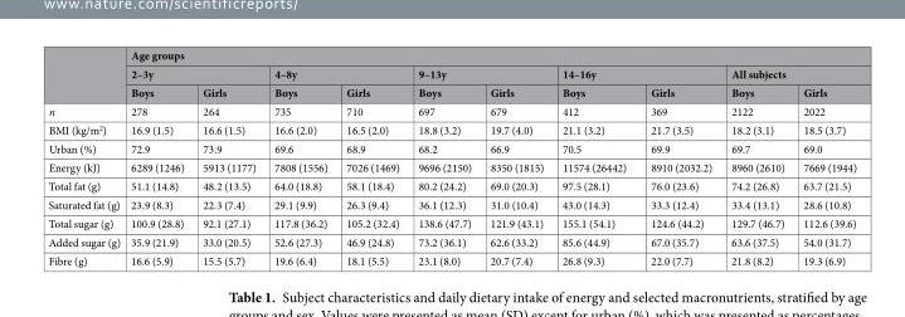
<table><thead><tr><td rowspan="3"></td><td colspan="10">Age groups</td></tr><tr><td colspan="2">2–3y</td><td colspan="2">4–8y</td><td colspan="2">9–13y</td><td colspan="2">14–16y</td><td colspan="2">All subjects</td></tr><tr><td>Boys</td><td>Girls</td><td>Boys</td><td>Girls</td><td>Boys</td><td>Girls</td><td>Boys</td><td>Girls</td><td>Boys</td><td>Girls</td></tr></thead><tbody><tr><td>n</td><td>278</td><td>264</td><td>735</td><td>710</td><td>697</td><td>679</td><td>412</td><td>369</td><td>2122</td><td>2022</td></tr><tr><td>BMI (kg/m<sup>2</sup>)</td><td>16.9 (1.5)</td><td>16.6 (1.5)</td><td>16.6 (2.0)</td><td>16.5 (2.0)</td><td>18.8 (3.2)</td><td>19.7 (4.0)</td><td>21.1 (3.2)</td><td>21.7 (3.5)</td><td>18.2 (3.1)</td><td>18.5 (3.7)</td></tr><tr><td>Urban (%)</td><td>72.9</td><td>73.9</td><td>69.6</td><td>68.9</td><td>68.2</td><td>66.9</td><td>70.5</td><td>69.9</td><td>69.7</td><td>69.0</td></tr><tr><td>Energy (kJ)</td><td>6289 (1246)</td><td>5913 (1177)</td><td>7808 (1556)</td><td>7026 (1469)</td><td>9696 (2150)</td><td>8350 (1815)</td><td>11574 (26442)</td><td>8910 (2032.2)</td><td>8960 (2610)</td><td>7669 (1944)</td></tr><tr><td>Total fat (g)</td><td>51.1 (14.8)</td><td>48.2 (13.5)</td><td>64.0 (18.8)</td><td>58.1 (18.4)</td><td>80.2 (24.2)</td><td>69.0 (20.3)</td><td>97.5 (28.1)</td><td>76.0 (23.6)</td><td>74.2 (26.8)</td><td>63.7 (21.5)</td></tr><tr><td>Saturated fat (g)</td><td>23.9 (8.3)</td><td>22.3 (7.4)</td><td>29.1 (9.9)</td><td>26.3 (9.4)</td><td>36.1 (12.3)</td><td>31.0 (10.4)</td><td>43.0 (14.3)</td><td>33.3 (12.4)</td><td>33.4 (13.1)</td><td>28.6 (10.8)</td></tr><tr><td>Total sugar (g)</td><td>100.9 (28.8)</td><td>92.1 (27.1)</td><td>117.8 (36.2)</td><td>105.2 (32.4)</td><td>138.6 (47.7)</td><td>121.9 (43.1)</td><td>155.1 (54.1)</td><td>124.6 (44.2)</td><td>129.7 (46.7)</td><td>112.6 (39.6)</td></tr><tr><td>Added sugar (g)</td><td>35.9 (21.9)</td><td>33.0 (20.5)</td><td>52.6 (27.3)</td><td>46.9 (24.8)</td><td>73.2 (36.1)</td><td>62.6 (33.2)</td><td>85.6 (44.9)</td><td>67.0 (35.7)</td><td>63.6 (37.5)</td><td>54.0 (31.7)</td></tr><tr><td>Fibre (g)</td><td>16.6 (5.9)</td><td>15.5 (5.7)</td><td>19.6 (6.4)</td><td>18.1 (5.5)</td><td>23.1 (8.0)</td><td>20.7 (7.4)</td><td>26.8 (9.3)</td><td>22.0 (7.7)</td><td>21.8 (8.2)</td><td>19.3 (6.9)</td></tr></tbody></table>